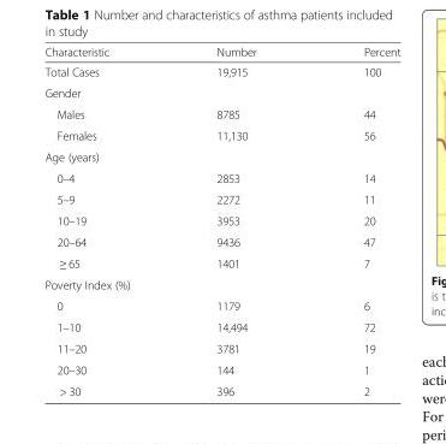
<table><thead><tr><td>Characteristic</td><td>Number</td><td>Percent</td></tr></thead><tbody><tr><td>Total Cases</td><td>19,915</td><td>100</td></tr><tr><td colspan="3">Gender</td></tr><tr><td>Males</td><td>8785</td><td>44</td></tr><tr><td>Females</td><td>11,130</td><td>56</td></tr><tr><td colspan="3">Age (years)</td></tr><tr><td>0–4</td><td>2853</td><td>14</td></tr><tr><td>5–9</td><td>2272</td><td>11</td></tr><tr><td>10–19</td><td>3953</td><td>20</td></tr><tr><td>20–64</td><td>9436</td><td>47</td></tr><tr><td>≥ 65</td><td>1401</td><td>7</td></tr><tr><td colspan="3">Poverty Index (%)</td></tr><tr><td>0</td><td>1179</td><td>6</td></tr><tr><td>1–10</td><td>14,494</td><td>72</td></tr><tr><td>11–20</td><td>3781</td><td>19</td></tr><tr><td>20–30</td><td>144</td><td>1</td></tr><tr><td>&gt; 30</td><td>396</td><td>2</td></tr></tbody></table>